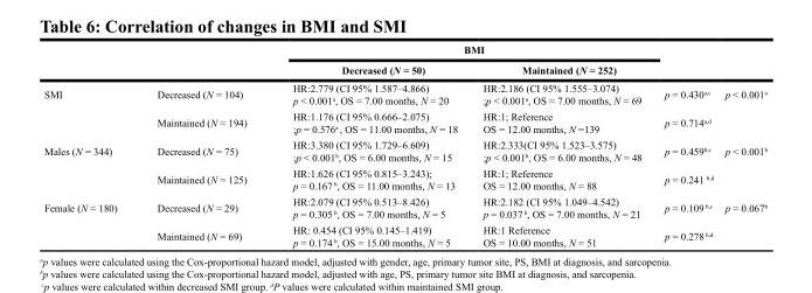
<table><thead><tr><td rowspan="2"></td><td rowspan="2"></td><td colspan="2">BMI</td><td rowspan="2"></td><td rowspan="2"></td></tr><tr><td>Decreased (N = 50)</td><td>Maintained (N = 252)</td></tr></thead><tbody><tr><td rowspan="2">SMI</td><td>Decreased (N = 104)</td><td>HR:2.779 (CI 95% 1.587–4.866) p &lt; 0.001<sup>a</sup>, OS = 7.00 months, N = 20</td><td>HR:2.186 (CI 95% 1.555–3.074) ;p &lt; 0.001<sup>a</sup>, OS = 7.00 months, N = 69</td><td>p = 0.430<sup>a,c</sup></td><td>p &lt; 0.001<sup>a</sup></td></tr><tr><td>Maintained (N = 194)</td><td>HR:1.176 (CI 95% 0.666–2.075) ;p = 0.576<sup>a</sup> , OS = 11.00 months, N = 18</td><td>HR:1; Reference OS = 12.00 months, N =139</td><td>p = 0.714<sup>a,d</sup></td><td></td></tr><tr><td rowspan="2">Males (N = 344)</td><td>Decreased (N = 75)</td><td>HR:3.380 (CI 95% 1.729–6.609) ;p &lt; 0.001<sup>b</sup>, OS = 6.00 months, N = 15</td><td>HR:2.333(CI 95% 1.523–3.575) ;p &lt; 0.001<sup>b</sup>, OS = 6.00 months, N = 48</td><td>p = 0.459<sup>b,c</sup></td><td>p &lt; 0.001<sup>b</sup></td></tr><tr><td>Maintained (N = 125)</td><td>HR:1.626 (CI 95% 0.815–3.243); p = 0.167 <sup>b</sup>, OS = 11.00 months, N = 13</td><td>HR:1; Reference OS = 12.00 months, N = 88</td><td>p = 0.241 <sup>b,d</sup></td><td></td></tr><tr><td rowspan="2">Female (N = 180)</td><td>Decreased (N = 29)</td><td>HR:2.079 (CI 95% 0.513–8.426) p = 0.305 <sup>b</sup>, OS = 7.00 months, N = 5</td><td>HR:2.182 (CI 95% 1.049–4.542) p = 0.037 <sup>b</sup>, OS = 7.00 months, N = 21</td><td>p = 0.109 <sup>b,c</sup></td><td>p = 0.067<sup>b</sup></td></tr><tr><td>Maintained (N = 69)</td><td>HR: 0.454 (CI 95% 0.145–1.419) p = 0.174 <sup>b</sup>, OS = 15.00 months, N = 5</td><td>HR:1 Reference OS = 10.00 months, N = 51</td><td>p = 0.278 <sup>b,d</sup></td><td></td></tr></tbody></table>